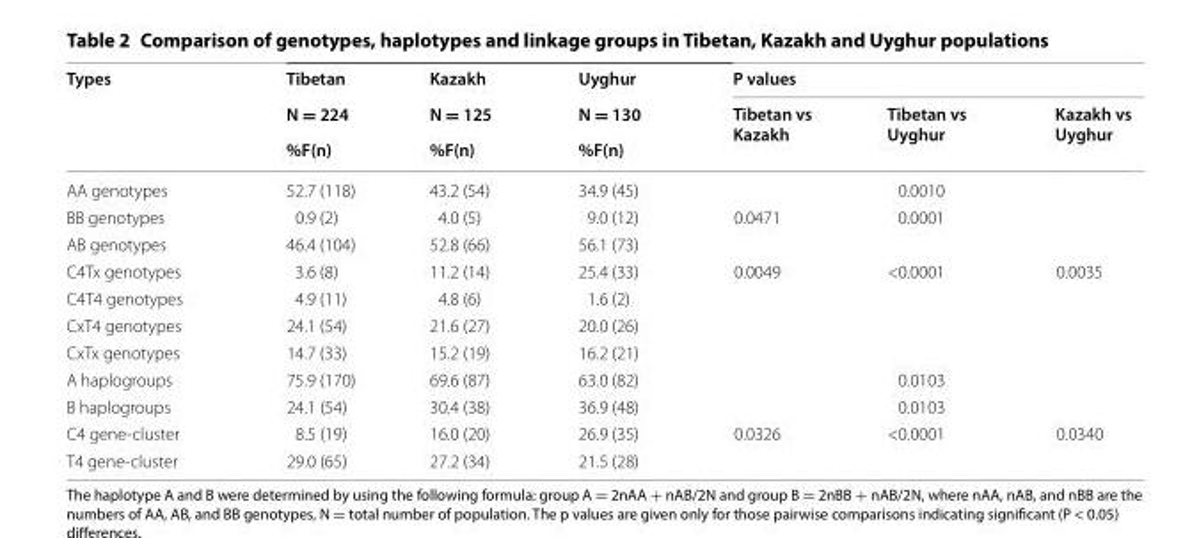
<table><thead><tr><td rowspan="3">Types</td><td rowspan="3">Tibetan N = 224 %F(n)</td><td rowspan="3">Kazakh N = 125 %F(n)</td><td rowspan="3">Uyghur N = 130 %F(n)</td><td colspan="3">P values</td></tr><tr><td rowspan="2">Tibetan vs Kazakh</td><td rowspan="2">Tibetan vs Uyghur</td><td rowspan="2">Kazakh vs Uyghur</td></tr><tr></tr></thead><tbody><tr><td>AA genotypes</td><td>52.7 (118)</td><td>43.2 (54)</td><td>34.9 (45)</td><td></td><td>0.0010</td><td></td></tr><tr><td>BB genotypes</td><td>0.9 (2)</td><td>4.0 (5)</td><td>9.0 (12)</td><td>0.0471</td><td>0.0001</td><td></td></tr><tr><td>AB genotypes</td><td>46.4 (104)</td><td>52.8 (66)</td><td>56.1 (73)</td><td></td><td></td><td></td></tr><tr><td>C4Tx genotypes</td><td>3.6 (8)</td><td>11.2 (14)</td><td>25.4 (33)</td><td>0.0049</td><td>&lt;0.0001</td><td>0.0035</td></tr><tr><td>C4T4 genotypes</td><td>4.9 (11)</td><td>4.8 (6)</td><td>1.6 (2)</td><td></td><td></td><td></td></tr><tr><td>CxT4 genotypes</td><td>24.1 (54)</td><td>21.6 (27)</td><td>20.0 (26)</td><td></td><td></td><td></td></tr><tr><td>CxTx genotypes</td><td>14.7 (33)</td><td>15.2 (19)</td><td>16.2 (21)</td><td></td><td></td><td></td></tr><tr><td>A haplogroups</td><td>75.9 (170)</td><td>69.6 (87)</td><td>63.0 (82)</td><td></td><td>0.0103</td><td></td></tr><tr><td>B haplogroups</td><td>24.1 (54)</td><td>30.4 (38)</td><td>36.9 (48)</td><td></td><td>0.0103</td><td></td></tr><tr><td>C4 gene-cluster</td><td>8.5 (19)</td><td>16.0 (20)</td><td>26.9 (35)</td><td>0.0326</td><td>&lt;0.0001</td><td>0.0340</td></tr><tr><td>T4 gene-cluster</td><td>29.0 (65)</td><td>27.2 (34)</td><td>21.5 (28)</td><td></td><td></td><td></td></tr></tbody></table>